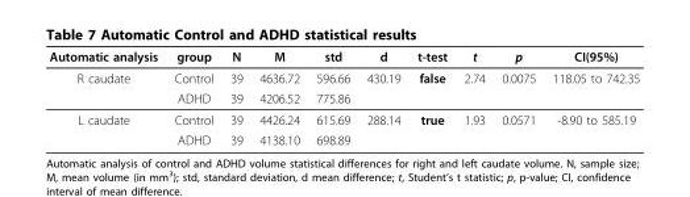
<table><thead><tr><td>Automatic analysis</td><td>group</td><td>N</td><td>M</td><td>std</td><td>d</td><td>t-test</td><td>t</td><td>p</td><td>CI(95%)</td></tr></thead><tbody><tr><td rowspan="2">R caudate</td><td>Control</td><td>39</td><td>4636.72</td><td>596.66</td><td>430.19</td><td>false</td><td>2.74</td><td>0.0075</td><td>118.05 to 742.35</td></tr><tr><td>ADHD</td><td>39</td><td>4206.52</td><td>775.86</td><td></td><td></td><td></td><td></td><td></td></tr><tr><td rowspan="2">L caudate</td><td>Control</td><td>39</td><td>4426.24</td><td>615.69</td><td>288.14</td><td>true</td><td>1.93</td><td>0.0571</td><td>-8.90 to 585.19</td></tr><tr><td>ADHD</td><td>39</td><td>4138.10</td><td>698.89</td><td></td><td></td><td></td><td></td><td></td></tr></tbody></table>